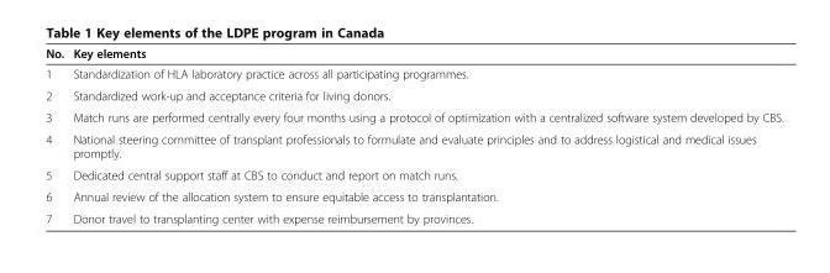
<table><thead><tr><td>No.</td><td>Key elements</td></tr></thead><tbody><tr><td>1</td><td>Standardization of HLA laboratory practice across all participating programmes.</td></tr><tr><td>2</td><td>Standardized work-up and acceptance criteria for living donors.</td></tr><tr><td>3</td><td>Match runs are performed centrally every four months using a protocol of optimization with a centralized software system developed by CBS.</td></tr><tr><td>4</td><td>National steering committee of transplant professionals to formulate and evaluate principles and to address logistical and medical issues promptly.</td></tr><tr><td>5</td><td>Dedicated central support staff at CBS to conduct and report on match runs.</td></tr><tr><td>6</td><td>Annual review of the allocation system to ensure equitable access to transplantation.</td></tr><tr><td>7</td><td>Donor travel to transplanting center with expense reimbursement by provinces.</td></tr></tbody></table>